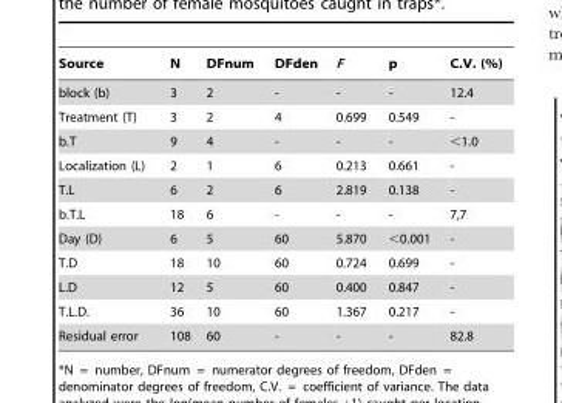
<table><thead><tr><td>Source</td><td>N</td><td>DFnum</td><td>DFden</td><td>F</td><td>p</td><td>C.V. (%)</td></tr></thead><tbody><tr><td>block (b)</td><td>3</td><td>2</td><td>-</td><td>-</td><td>-</td><td>12.4</td></tr><tr><td>Treatment (T)</td><td>3</td><td>2</td><td>4</td><td>0.699</td><td>0.549</td><td>-</td></tr><tr><td>b.T</td><td>9</td><td>4</td><td>-</td><td>-</td><td>-</td><td>&lt;1.0</td></tr><tr><td>Localization (L)</td><td>2</td><td>1</td><td>6</td><td>0.213</td><td>0.661</td><td>-</td></tr><tr><td>T.L</td><td>6</td><td>2</td><td>6</td><td>2.819</td><td>0.138</td><td>-</td></tr><tr><td>b.T.L</td><td>18</td><td>6</td><td>-</td><td>-</td><td>-</td><td>7,7</td></tr><tr><td>Day (D)</td><td>6</td><td>5</td><td>60</td><td>5.870</td><td>&lt;0.001</td><td>-</td></tr><tr><td>T.D</td><td>18</td><td>10</td><td>60</td><td>0.724</td><td>0.699</td><td>-</td></tr><tr><td>L.D</td><td>12</td><td>5</td><td>60</td><td>0.400</td><td>0.847</td><td>-</td></tr><tr><td>T.L.D.</td><td>36</td><td>10</td><td>60</td><td>1.367</td><td>0.217</td><td>-</td></tr><tr><td>Residual error</td><td>108</td><td>60</td><td>-</td><td>-</td><td>-</td><td>82.8</td></tr></tbody></table>